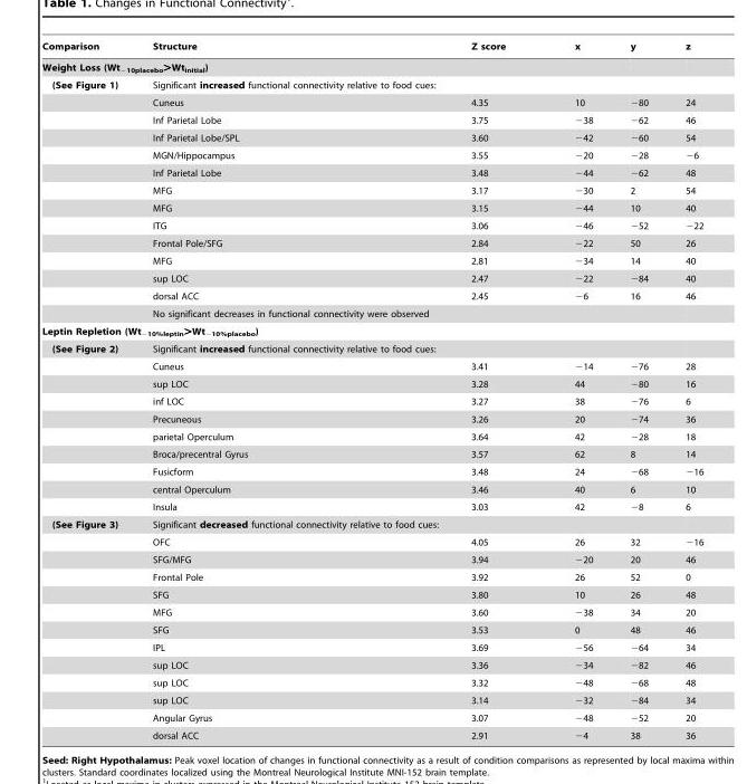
<table><thead><tr><td>Comparison</td><td>Structure</td><td>Z score</td><td>x</td><td>y</td><td>z</td></tr></thead><tbody><tr><td colspan="6">Weight Loss (Wt<sub>−10placebo</sub>&gt;Wt<sub>initial</sub>)</td></tr><tr><td rowspan="14">(See Figure 1)</td><td colspan="5">Significant increased functional connectivity relative to food cues:</td></tr><tr><td>Cuneus</td><td>4.35</td><td>10</td><td>−80</td><td>24</td></tr><tr><td>Inf Parietal Lobe</td><td>3.75</td><td>−38</td><td>−62</td><td>46</td></tr><tr><td>Inf Parietal Lobe/SPL</td><td>3.60</td><td>−42</td><td>−60</td><td>54</td></tr><tr><td>MGN/Hippocampus</td><td>3.55</td><td>−20</td><td>−28</td><td>−6</td></tr><tr><td>Inf Parietal Lobe</td><td>3.48</td><td>−44</td><td>−62</td><td>48</td></tr><tr><td>MFG</td><td>3.17</td><td>−30</td><td>2</td><td>54</td></tr><tr><td>MFG</td><td>3.15</td><td>−44</td><td>10</td><td>40</td></tr><tr><td>ITG</td><td>3.06</td><td>−46</td><td>−52</td><td>−22</td></tr><tr><td>Frontal Pole/SFG</td><td>2.84</td><td>−22</td><td>50</td><td>26</td></tr><tr><td>MFG</td><td>2.81</td><td>−34</td><td>14</td><td>40</td></tr><tr><td>sup LOC</td><td>2.47</td><td>−22</td><td>−84</td><td>40</td></tr><tr><td>dorsal ACC</td><td>2.45</td><td>−6</td><td>16</td><td>46</td></tr><tr><td colspan="4">No significant decreases in functional connectivity were observed</td><td></td></tr><tr><td colspan="6">Leptin Repletion (Wt<sub>−10%leptin</sub>&gt;Wt<sub>−10%placebo</sub>)</td></tr><tr><td rowspan="10">(See Figure 2)</td><td colspan="4">Significant increased functional connectivity relative to food cues:</td><td></td></tr><tr><td>Cuneus</td><td>3.41</td><td>−14</td><td>−76</td><td>28</td></tr><tr><td>sup LOC</td><td>3.28</td><td>44</td><td>−80</td><td>16</td></tr><tr><td>inf LOC</td><td>3.27</td><td>38</td><td>−76</td><td>6</td></tr><tr><td>Precuneous</td><td>3.26</td><td>20</td><td>−74</td><td>36</td></tr><tr><td>parietal Operculum</td><td>3.64</td><td>42</td><td>−28</td><td>18</td></tr><tr><td>Broca/precentral Gyrus</td><td>3.57</td><td>62</td><td>8</td><td>14</td></tr><tr><td>Fusicform</td><td>3.48</td><td>24</td><td>−68</td><td>−16</td></tr><tr><td>central Operculum</td><td>3.46</td><td>40</td><td>6</td><td>10</td></tr><tr><td>Insula</td><td>3.03</td><td>42</td><td>−8</td><td>6</td></tr><tr><td rowspan="13">(See Figure 3)</td><td colspan="4">Significant decreased functional connectivity relative to food cues:</td><td></td></tr><tr><td>OFC</td><td>4.05</td><td>26</td><td>32</td><td>−16</td></tr><tr><td>SFG/MFG</td><td>3.94</td><td>−20</td><td>20</td><td>46</td></tr><tr><td>Frontal Pole</td><td>3.92</td><td>26</td><td>52</td><td>0</td></tr><tr><td>SFG</td><td>3.80</td><td>10</td><td>26</td><td>48</td></tr><tr><td>MFG</td><td>3.60</td><td>−38</td><td>34</td><td>20</td></tr><tr><td>SFG</td><td>3.53</td><td>0</td><td>48</td><td>46</td></tr><tr><td>IPL</td><td>3.69</td><td>−56</td><td>−64</td><td>34</td></tr><tr><td>sup LOC</td><td>3.36</td><td>−34</td><td>−82</td><td>46</td></tr><tr><td>sup LOC</td><td>3.32</td><td>−48</td><td>−68</td><td>48</td></tr><tr><td>sup LOC</td><td>3.14</td><td>−32</td><td>−84</td><td>34</td></tr><tr><td>Angular Gyrus</td><td>3.07</td><td>−48</td><td>−52</td><td>20</td></tr><tr><td>dorsal ACC</td><td>2.91</td><td>−4</td><td>38</td><td>36</td></tr></tbody></table>